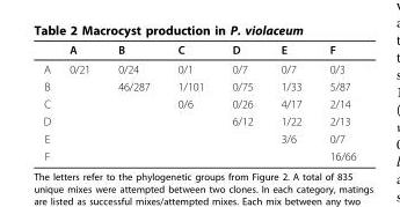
<table><thead><tr><td></td><td>A</td><td>B</td><td>C</td><td>D</td><td>E</td><td>F</td></tr></thead><tbody><tr><td>A</td><td>0/21</td><td>0/24</td><td>0/1</td><td>0/7</td><td>0/7</td><td>0/3</td></tr><tr><td>B</td><td></td><td>46/287</td><td>1/101</td><td>0/75</td><td>1/33</td><td>5/87</td></tr><tr><td>C</td><td></td><td></td><td>0/6</td><td>0/26</td><td>4/17</td><td>2/14</td></tr><tr><td>D</td><td></td><td></td><td></td><td>6/12</td><td>1/22</td><td>2/13</td></tr><tr><td>E</td><td></td><td></td><td></td><td></td><td>3/6</td><td>0/7</td></tr><tr><td>F</td><td></td><td></td><td></td><td></td><td></td><td>16/66</td></tr></tbody></table>